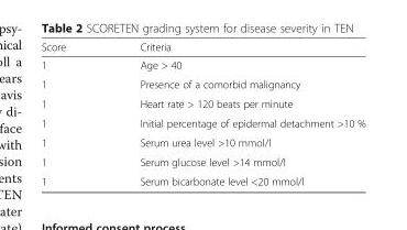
<table><thead><tr><td>Score</td><td>Criteria</td></tr></thead><tbody><tr><td>1</td><td>Age &gt; 40</td></tr><tr><td>1</td><td>Presence of a comorbid malignancy</td></tr><tr><td>1</td><td>Heart rate &gt; 120 beats per minute</td></tr><tr><td>1</td><td>Initial percentage of epidermal detachment &gt;10 %</td></tr><tr><td>1</td><td>Serum urea level &gt;10 mmol/l</td></tr><tr><td>1</td><td>Serum glucose level &gt;14 mmol/l</td></tr><tr><td>1</td><td>Serum bicarbonate level &lt;20 mmol/l</td></tr></tbody></table>